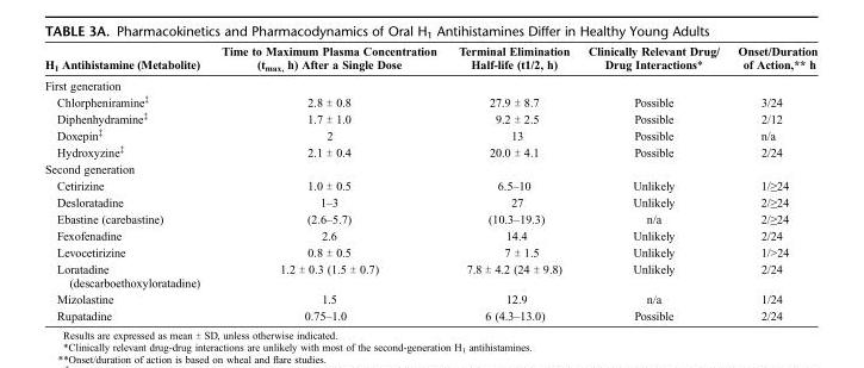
<table><thead><tr><td>H<sub>1</sub> Antihistamine (Metabolite)</td><td>Time to Maximum Plasma Concentration (t<sub>max</sub>, h) After a Single Dose</td><td>Terminal Elimination Half-life (t1/2, h)</td><td>Clinically Relevant Drug/ Drug Interactions*</td><td>Onset/Duration of Action,** h</td></tr></thead><tbody><tr><td colspan="5">First generation</td></tr><tr><td>Chlorpheniramine<sup>‡</sup></td><td>2.8 ± 0.8</td><td>27.9 ± 8.7</td><td>Possible</td><td>3/24</td></tr><tr><td>Diphenhydramine<sup>‡</sup></td><td>1.7 ± 1.0</td><td>9.2 ± 2.5</td><td>Possible</td><td>2/12</td></tr><tr><td>Doxepin<sup>‡</sup></td><td>2</td><td>13</td><td>Possible</td><td>n/a</td></tr><tr><td>Hydroxyzine<sup>‡</sup></td><td>2.1 ± 0.4</td><td>20.0 ± 4.1</td><td>Possible</td><td>2/24</td></tr><tr><td colspan="5">Second generation</td></tr><tr><td>Cetirizine</td><td>1.0 ± 0.5</td><td>6.5Y10</td><td>Unlikely</td><td>1/≥24</td></tr><tr><td>Desloratadine</td><td>1Y3</td><td>27</td><td>Unlikely</td><td>2/≥24</td></tr><tr><td>Ebastine (carebastine)</td><td>(2.6Y5.7)</td><td>(10.3Y19.3)</td><td>n/a</td><td>2/≥24</td></tr><tr><td>Fexofenadine</td><td>2.6</td><td>14.4</td><td>Unlikely</td><td>2/24</td></tr><tr><td>Levocetirizine</td><td>0.8 ± 0.5</td><td>7 ± 1.5</td><td>Unlikely</td><td>1/≥24</td></tr><tr><td>Loratadine (descarboethoxyloratadine)</td><td>1.2 ± 0.3 (1.5 ± 0.7)</td><td>7.8 ± 4.2 (24 ± 9.8)</td><td>Unlikely</td><td>2/24</td></tr><tr><td>Mizolastine</td><td>1.5</td><td>12.9</td><td>n/a</td><td>1/24</td></tr><tr><td>Rupatadine</td><td>0.75Y1.0</td><td>6 (4.3Y13.0)</td><td>Possible</td><td>2/24</td></tr></tbody></table>